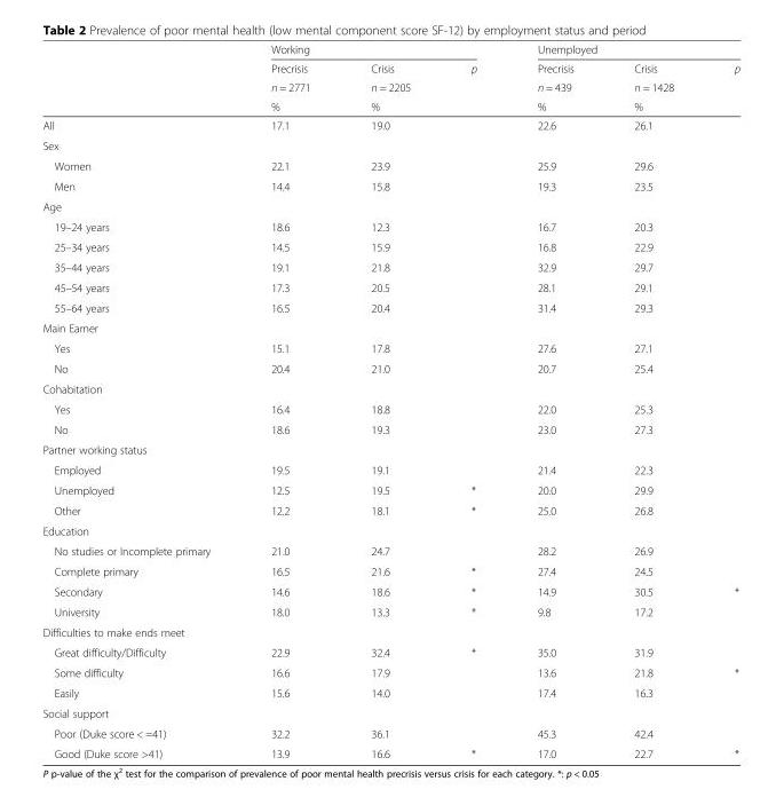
<table><thead><tr><td rowspan="4"></td><td colspan="3">Working</td><td colspan="3">Unemployed</td></tr><tr><td rowspan="3">Precrisis n = 2771 %</td><td rowspan="3">Crisis n = 2205 %</td><td rowspan="3">p</td><td rowspan="3">Precrisis n = 439 %</td><td rowspan="3">Crisis n = 1428 %</td><td rowspan="3">p</td></tr><tr></tr><tr></tr></thead><tbody><tr><td>All</td><td>17.1</td><td>19.0</td><td></td><td>22.6</td><td>26.1</td><td></td></tr><tr><td colspan="7">Sex</td></tr><tr><td>Women</td><td>22.1</td><td>23.9</td><td></td><td>25.9</td><td>29.6</td><td></td></tr><tr><td>Men</td><td>14.4</td><td>15.8</td><td></td><td>19.3</td><td>23.5</td><td></td></tr><tr><td colspan="7">Age</td></tr><tr><td>19–24 years</td><td>18.6</td><td>12.3</td><td></td><td>16.7</td><td>20.3</td><td></td></tr><tr><td>25–34 years</td><td>14.5</td><td>15.9</td><td></td><td>16.8</td><td>22.9</td><td></td></tr><tr><td>35–44 years</td><td>19.1</td><td>21.8</td><td></td><td>32.9</td><td>29.7</td><td></td></tr><tr><td>45–54 years</td><td>17.3</td><td>20.5</td><td></td><td>28.1</td><td>29.1</td><td></td></tr><tr><td>55–64 years</td><td>16.5</td><td>20.4</td><td></td><td>31.4</td><td>29.3</td><td></td></tr><tr><td colspan="7">Main Earner</td></tr><tr><td>Yes</td><td>15.1</td><td>17.8</td><td></td><td>27.6</td><td>27.1</td><td></td></tr><tr><td>No</td><td>20.4</td><td>21.0</td><td></td><td>20.7</td><td>25.4</td><td></td></tr><tr><td colspan="7">Cohabitation</td></tr><tr><td>Yes</td><td>16.4</td><td>18.8</td><td></td><td>22.0</td><td>25.3</td><td></td></tr><tr><td>No</td><td>18.6</td><td>19.3</td><td></td><td>23.0</td><td>27.3</td><td></td></tr><tr><td colspan="7">Partner working status</td></tr><tr><td>Employed</td><td>19.5</td><td>19.1</td><td></td><td>21.4</td><td>22.3</td><td></td></tr><tr><td>Unemployed</td><td>12.5</td><td>19.5</td><td>*</td><td>20.0</td><td>29.9</td><td></td></tr><tr><td>Other</td><td>12.2</td><td>18.1</td><td>*</td><td>25.0</td><td>26.8</td><td></td></tr><tr><td colspan="7">Education</td></tr><tr><td>No studies or Incomplete primary</td><td>21.0</td><td>24.7</td><td></td><td>28.2</td><td>26.9</td><td></td></tr><tr><td>Complete primary</td><td>16.5</td><td>21.6</td><td>*</td><td>27.4</td><td>24.5</td><td></td></tr><tr><td>Secondary</td><td>14.6</td><td>18.6</td><td>*</td><td>14.9</td><td>30.5</td><td>*</td></tr><tr><td>University</td><td>18.0</td><td>13.3</td><td>*</td><td>9.8</td><td>17.2</td><td></td></tr><tr><td colspan="7">Difficulties to make ends meet</td></tr><tr><td>Great difficulty/Difficulty</td><td>22.9</td><td>32.4</td><td>*</td><td>35.0</td><td>31.9</td><td></td></tr><tr><td>Some difficulty</td><td>16.6</td><td>17.9</td><td></td><td>13.6</td><td>21.8</td><td>*</td></tr><tr><td>Easily</td><td>15.6</td><td>14.0</td><td></td><td>17.4</td><td>16.3</td><td></td></tr><tr><td colspan="7">Social support</td></tr><tr><td>Poor (Duke score &lt; =41)</td><td>32.2</td><td>36.1</td><td></td><td>45.3</td><td>42.4</td><td></td></tr><tr><td>Good (Duke score &gt;41)</td><td>13.9</td><td>16.6</td><td>*</td><td>17.0</td><td>22.7</td><td>*</td></tr></tbody></table>